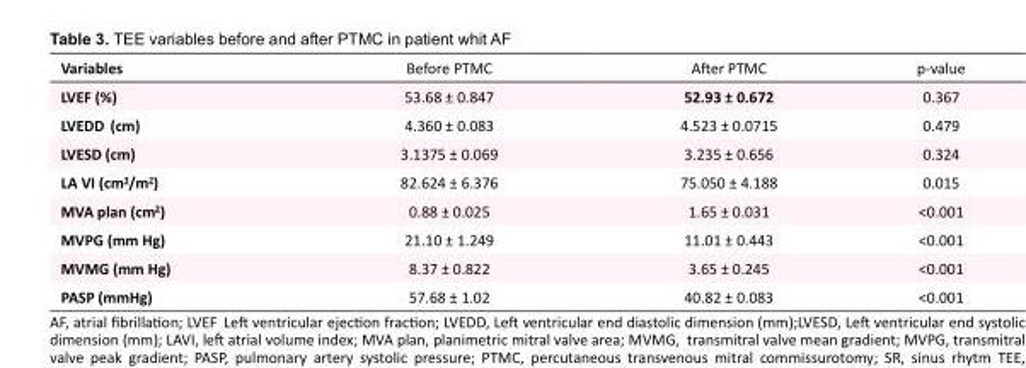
<table><tbody><tr><td>Variables</td><td>Before PTMC</td><td>After PTMC</td><td>p-value</td></tr><tr><td>LVEF (%)</td><td>53.68 ± 0.847</td><td>52.93 ± 0.672</td><td>0.367</td></tr><tr><td>LVEDD (cm)</td><td>4.360 ± 0.083</td><td>4.523 ± 0.0715</td><td>0.479</td></tr><tr><td>LVESD (cm)</td><td>3.1375 ± 0.069</td><td>3.235 ± 0.656</td><td>0.324</td></tr><tr><td>LA VI (cm<sup>3</sup>/m<sup>2</sup>)</td><td>82.624 ± 6.376</td><td>75.050 ± 4.188</td><td>0.015</td></tr><tr><td>MVA plan (cm<sup>2</sup>)</td><td>0.88 ± 0.025</td><td>1.65 ± 0.031</td><td>&lt;0.001</td></tr><tr><td>MVPG (mm Hg)</td><td>21.10 ± 1.249</td><td>11.01 ± 0.443</td><td>&lt;0.001</td></tr><tr><td>MVMG (mm Hg)</td><td>8.37 ± 0.822</td><td>3.65 ± 0.245</td><td>&lt;0.001</td></tr><tr><td>PASP (mmHg)</td><td>57.68 ± 1.02</td><td>40.82 ± 0.083</td><td>&lt;0.001</td></tr></tbody></table>